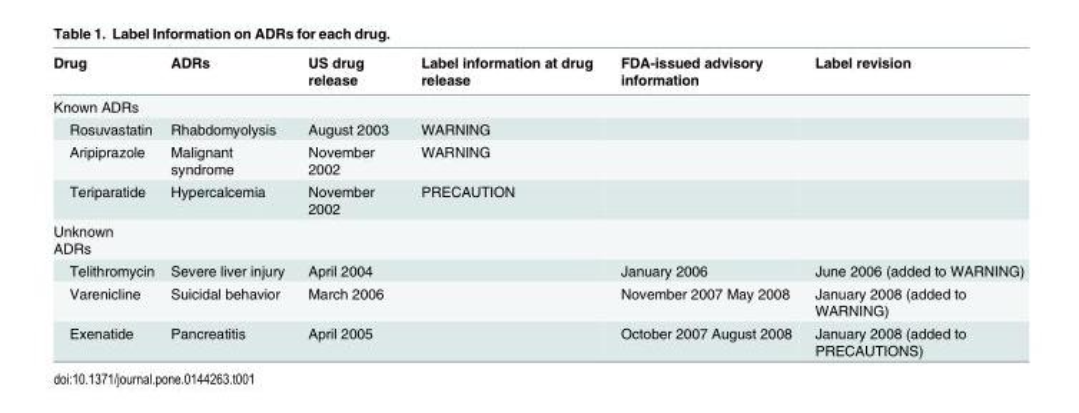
<table><thead><tr><td>Drug</td><td>ADRs</td><td>US drug release</td><td>Label information at drug release</td><td>FDA-issued advisory information</td><td>Label revision</td></tr></thead><tbody><tr><td colspan="6">Known ADRs</td></tr><tr><td>Rosuvastatin</td><td>Rhabdomyolysis</td><td>August 2003</td><td>WARNING</td><td></td><td></td></tr><tr><td>Aripiprazole</td><td>Malignant syndrome</td><td>November 2002</td><td>WARNING</td><td></td><td></td></tr><tr><td>Teriparatide</td><td>Hypercalcemia</td><td>November 2002</td><td>PRECAUTION</td><td></td><td></td></tr><tr><td colspan="6">Unknown ADRs</td></tr><tr><td>Telithromycin</td><td>Severe liver injury</td><td>April 2004</td><td></td><td>January 2006</td><td>June 2006 (added to WARNING)</td></tr><tr><td>Varenicline</td><td>Suicidal behavior</td><td>March 2006</td><td></td><td>November 2007 May 2008</td><td>January 2008 (added to WARNING)</td></tr><tr><td>Exenatide</td><td>Pancreatitis</td><td>April 2005</td><td></td><td>October 2007 August 2008</td><td>January 2008 (added to PRECAUTIONS)</td></tr></tbody></table>